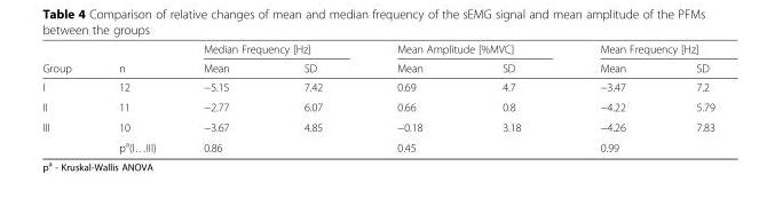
<table><thead><tr><td rowspan="2">Group</td><td rowspan="2">n</td><td colspan="2">Median Frequency [Hz]</td><td colspan="2">Mean Amplitude [%MVC]</td><td colspan="2">Mean Frequency [Hz]</td></tr><tr><td>Mean</td><td>SD</td><td>Mean</td><td>SD</td><td>Mean</td><td>SD</td></tr></thead><tbody><tr><td>I</td><td>12</td><td>−5.15</td><td>7.42</td><td>0.69</td><td>4.7</td><td>−3.47</td><td>7.2</td></tr><tr><td>II</td><td>11</td><td>−2.77</td><td>6.07</td><td>0.66</td><td>0.8</td><td>−4.22</td><td>5.79</td></tr><tr><td rowspan="2">III</td><td>10</td><td>−3.67</td><td>4.85</td><td>−0.18</td><td>3.18</td><td>−4.26</td><td>7.83</td></tr><tr><td>p<sup>a</sup>(I…III)</td><td>0.86</td><td></td><td>0.45</td><td></td><td>0.99</td><td></td></tr></tbody></table>